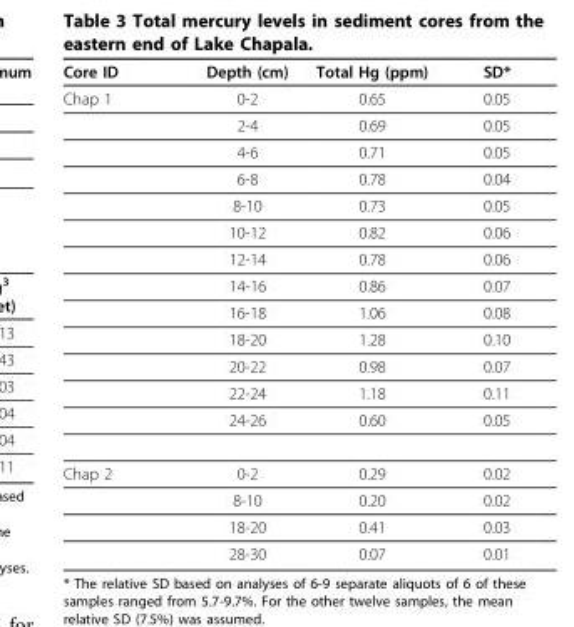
<table><thead><tr><td>Core ID</td><td>Depth (cm)</td><td>Total Hg (ppm)</td><td>SD*</td></tr></thead><tbody><tr><td rowspan="13">Chap 1</td><td>0-2</td><td>0.65</td><td>0.05</td></tr><tr><td>2-4</td><td>0.69</td><td>0.05</td></tr><tr><td>4-6</td><td>0.71</td><td>0.05</td></tr><tr><td>6-8</td><td>0.78</td><td>0.04</td></tr><tr><td>8-10</td><td>0.73</td><td>0.05</td></tr><tr><td>10-12</td><td>0.82</td><td>0.06</td></tr><tr><td>12-14</td><td>0.78</td><td>0.06</td></tr><tr><td>14-16</td><td>0.86</td><td>0.07</td></tr><tr><td>16-18</td><td>1.06</td><td>0.08</td></tr><tr><td>18-20</td><td>1.28</td><td>0.10</td></tr><tr><td>20-22</td><td>0.98</td><td>0.07</td></tr><tr><td>22-24</td><td>1.18</td><td>0.11</td></tr><tr><td>24-26</td><td>0.60</td><td>0.05</td></tr><tr><td rowspan="4">Chap 2</td><td>0-2</td><td>0.29</td><td>0.02</td></tr><tr><td>8-10</td><td>0.20</td><td>0.02</td></tr><tr><td>18-20</td><td>0.41</td><td>0.03</td></tr><tr><td>28-30</td><td>0.07</td><td>0.01</td></tr></tbody></table>